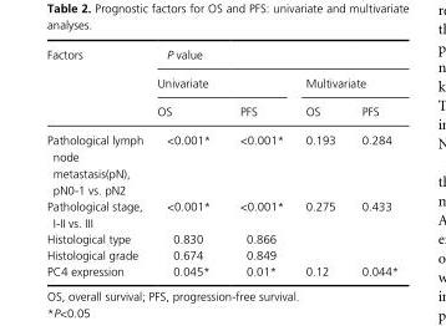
<table><thead><tr><td rowspan="3">Factors</td><td colspan="4">P value</td></tr><tr><td colspan="2">Univariate</td><td colspan="2">Multivariate</td></tr><tr><td>OS</td><td>PFS</td><td>OS</td><td>PFS</td></tr></thead><tbody><tr><td>Pathological lymph node metastasis(pN), pN0- 1 vs. pN2</td><td>&lt;0.001*</td><td>&lt;0.001*</td><td>0.193</td><td>0.284</td></tr><tr><td>Pathological stage, I- II vs. III</td><td>&lt;0.001*</td><td>&lt;0.001*</td><td>0.275</td><td>0.433</td></tr><tr><td>Histological type</td><td>0.830</td><td>0.866</td><td></td><td></td></tr><tr><td>Histological grade</td><td>0.674</td><td>0.849</td><td></td><td></td></tr><tr><td>PC4 expression</td><td>0.045*</td><td>0.01*</td><td>0.12</td><td>0.044*</td></tr></tbody></table>